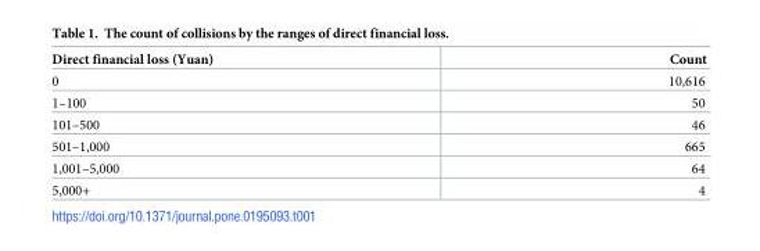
<table><thead><tr><td>Direct financial loss (Yuan)</td><td>Count</td></tr></thead><tbody><tr><td>0</td><td>10,616</td></tr><tr><td>1–100</td><td>50</td></tr><tr><td>101–500</td><td>46</td></tr><tr><td>501–1,000</td><td>665</td></tr><tr><td>1,001–5,000</td><td>64</td></tr><tr><td>5,000+</td><td>4</td></tr></tbody></table>